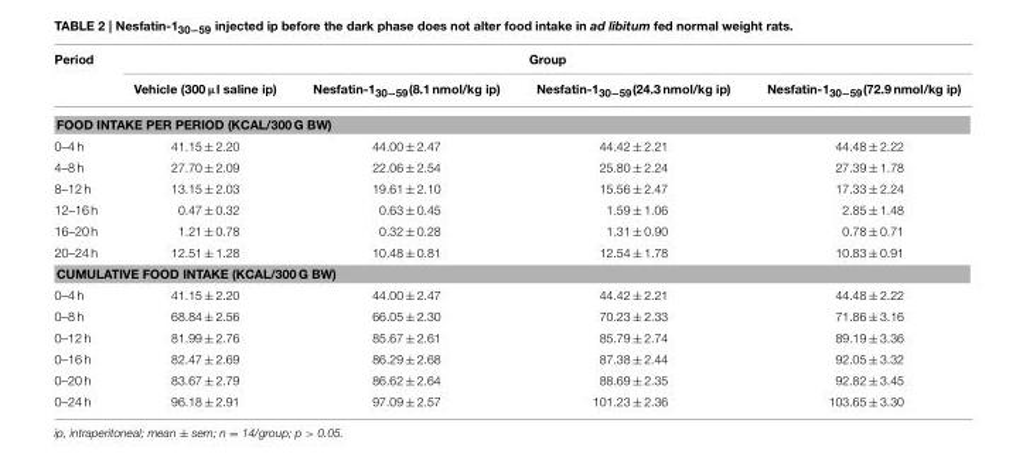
<table><thead><tr><td rowspan="2">Period</td><td colspan="4">Group</td></tr><tr><td>Vehicle (300 µl saline ip)</td><td>Nesfatin-1<sub>30−59</sub>(8.1 nmol/kg ip)</td><td>Nesfatin-1<sub>30−59</sub>(24.3 nmol/kg ip)</td><td>Nesfatin-1<sub>30−59</sub>(72.9 nmol/kg ip)</td></tr></thead><tbody><tr><td colspan="5">FOOD INTAKE PER PERIOD (KCAL/300 G BW)</td></tr><tr><td>0–4 h</td><td>41.15 ± 2.20</td><td>44.00 ± 2.47</td><td>44.42 ± 2.21</td><td>44.48 ± 2.22</td></tr><tr><td>4–8 h</td><td>27.70 ± 2.09</td><td>22.06 ± 2.54</td><td>25.80 ± 2.24</td><td>27.39 ± 1.78</td></tr><tr><td>8–12 h</td><td>13.15 ± 2.03</td><td>19.61 ± 2.10</td><td>15.56 ± 2.47</td><td>17.33 ± 2.24</td></tr><tr><td>12–16 h</td><td>0.47 ± 0.32</td><td>0.63 ± 0.45</td><td>1.59 ± 1.06</td><td>2.85 ± 1.48</td></tr><tr><td>16–20 h</td><td>1.21 ± 0.78</td><td>0.32 ± 0.28</td><td>1.31 ± 0.90</td><td>0.78 ± 0.71</td></tr><tr><td>20–24 h</td><td>12.51 ± 1.28</td><td>10.48 ± 0.81</td><td>12.54 ± 1.78</td><td>10.83 ± 0.91</td></tr><tr><td colspan="5">CUMULATIVE FOOD INTAKE (KCAL/300 G BW)</td></tr><tr><td>0–4 h</td><td>41.15 ± 2.20</td><td>44.00 ± 2.47</td><td>44.42 ± 2.21</td><td>44.48 ± 2.22</td></tr><tr><td>0–8 h</td><td>68.84 ± 2.56</td><td>66.05 ± 2.30</td><td>70.23 ± 2.33</td><td>71.86 ± 3.16</td></tr><tr><td>0–12 h</td><td>81.99 ± 2.76</td><td>85.67 ± 2.61</td><td>85.79 ± 2.74</td><td>89.19 ± 3.36</td></tr><tr><td>0–16 h</td><td>82.47 ± 2.69</td><td>86.29 ± 2.68</td><td>87.38 ± 2.44</td><td>92.05 ± 3.32</td></tr><tr><td>0–20 h</td><td>83.67 ± 2.79</td><td>86.62 ± 2.64</td><td>88.69 ± 2.35</td><td>92.82 ± 3.45</td></tr><tr><td>0–24 h</td><td>96.18 ± 2.91</td><td>97.09 ± 2.57</td><td>101.23 ± 2.36</td><td>103.65 ± 3.30</td></tr></tbody></table>